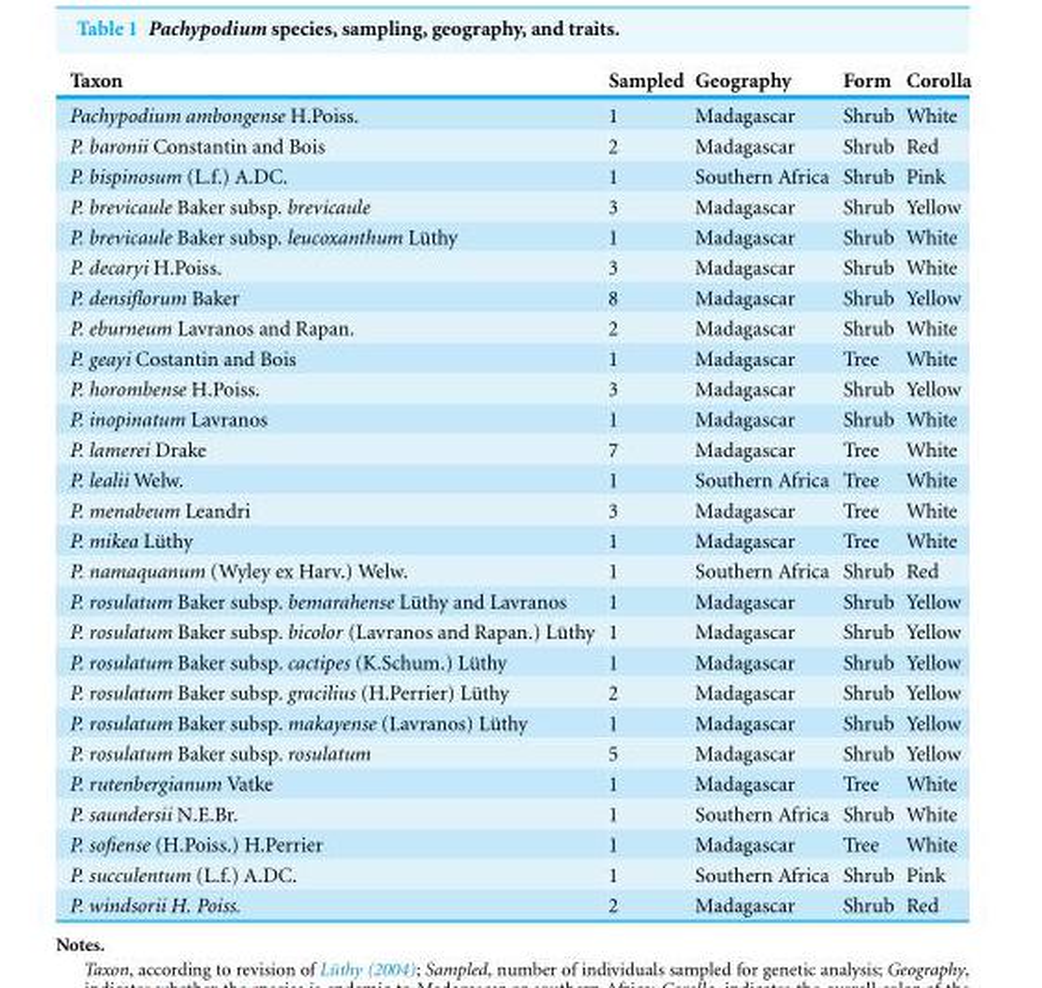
<table><thead><tr><td>Taxon</td><td>Sampled</td><td>Geography</td><td>Form</td><td>Corolla</td></tr></thead><tbody><tr><td>Pachypodium ambongense H.Poiss.</td><td>1</td><td>Madagascar</td><td>Shrub</td><td>White</td></tr><tr><td>P. baronii Constantin and Bois</td><td>2</td><td>Madagascar</td><td>Shrub</td><td>Red</td></tr><tr><td>P. bispinosum (L.f.) A.DC.</td><td>1</td><td>Southern Africa</td><td>Shrub</td><td>Pink</td></tr><tr><td>P. brevicaule Baker subsp. brevicaule</td><td>3</td><td>Madagascar</td><td>Shrub</td><td>Yellow</td></tr><tr><td>P. brevicaule Baker subsp. leucoxanthum L¨uthy</td><td>1</td><td>Madagascar</td><td>Shrub</td><td>White</td></tr><tr><td>P. decaryi H.Poiss.</td><td>3</td><td>Madagascar</td><td>Shrub</td><td>White</td></tr><tr><td>P. densiflorum Baker</td><td>8</td><td>Madagascar</td><td>Shrub</td><td>Yellow</td></tr><tr><td>P. eburneum Lavranos and Rapan.</td><td>2</td><td>Madagascar</td><td>Shrub</td><td>White</td></tr><tr><td>P. geayi Costantin and Bois</td><td>1</td><td>Madagascar</td><td>Tree</td><td>White</td></tr><tr><td>P. horombense H.Poiss.</td><td>3</td><td>Madagascar</td><td>Shrub</td><td>Yellow</td></tr><tr><td>P. inopinatum Lavranos</td><td>1</td><td>Madagascar</td><td>Shrub</td><td>White</td></tr><tr><td>P. lamerei Drake</td><td>7</td><td>Madagascar</td><td>Tree</td><td>White</td></tr><tr><td>P. lealii Welw.</td><td>1</td><td>Southern Africa</td><td>Tree</td><td>White</td></tr><tr><td>P. menabeum Leandri</td><td>3</td><td>Madagascar</td><td>Tree</td><td>White</td></tr><tr><td>P. mikea L¨uthy</td><td>1</td><td>Madagascar</td><td>Tree</td><td>White</td></tr><tr><td>P. namaquanum (Wyley ex Harv.) Welw.</td><td>1</td><td>Southern Africa</td><td>Shrub</td><td>Red</td></tr><tr><td>P. rosulatum Baker subsp. bemarahense L¨uthy and Lavranos</td><td>1</td><td>Madagascar</td><td>Shrub</td><td>Yellow</td></tr><tr><td>P. rosulatum Baker subsp. bicolor (Lavranos and Rapan.) L¨uthy</td><td>1</td><td>Madagascar</td><td>Shrub</td><td>Yellow</td></tr><tr><td>P. rosulatum Baker subsp. cactipes (K.Schum.) L¨uthy</td><td>1</td><td>Madagascar</td><td>Shrub</td><td>Yellow</td></tr><tr><td>P. rosulatum Baker subsp. gracilius (H.Perrier) L¨uthy</td><td>2</td><td>Madagascar</td><td>Shrub</td><td>Yellow</td></tr><tr><td>P. rosulatum Baker subsp. makayense (Lavranos) L¨uthy</td><td>1</td><td>Madagascar</td><td>Shrub</td><td>Yellow</td></tr><tr><td>P. rosulatum Baker subsp. rosulatum</td><td>5</td><td>Madagascar</td><td>Shrub</td><td>Yellow</td></tr><tr><td>P. rutenbergianum Vatke</td><td>1</td><td>Madagascar</td><td>Tree</td><td>White</td></tr><tr><td>P. saundersii N.E.Br.</td><td>1</td><td>Southern Africa</td><td>Shrub</td><td>White</td></tr><tr><td>P. sofiense (H.Poiss.) H.Perrier</td><td>1</td><td>Madagascar</td><td>Tree</td><td>White</td></tr><tr><td>P. succulentum (L.f.) A.DC.</td><td>1</td><td>Southern Africa</td><td>Shrub</td><td>Pink</td></tr><tr><td>P. windsorii H. Poiss.</td><td>2</td><td>Madagascar</td><td>Shrub</td><td>Red</td></tr></tbody></table>